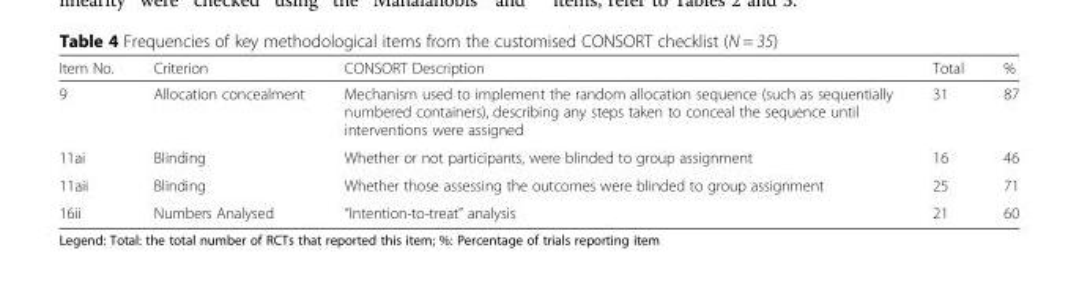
<table><thead><tr><td>Item No.</td><td>Criterion</td><td>CONSORT Description</td><td>Total</td><td>%</td></tr></thead><tbody><tr><td>9</td><td>Allocation concealment</td><td>Mechanism used to implement the random allocation sequence (such as sequentially numbered containers), describing any steps taken to conceal the sequence until interventions were assigned</td><td>31</td><td>87</td></tr><tr><td>11ai</td><td>Blinding</td><td>Whether or not participants, were blinded to group assignment</td><td>16</td><td>46</td></tr><tr><td>11aii</td><td>Blinding</td><td>Whether those assessing the outcomes were blinded to group assignment</td><td>25</td><td>71</td></tr><tr><td>16ii</td><td>Numbers Analysed</td><td>“Intention-to-treat” analysis</td><td>21</td><td>60</td></tr></tbody></table>